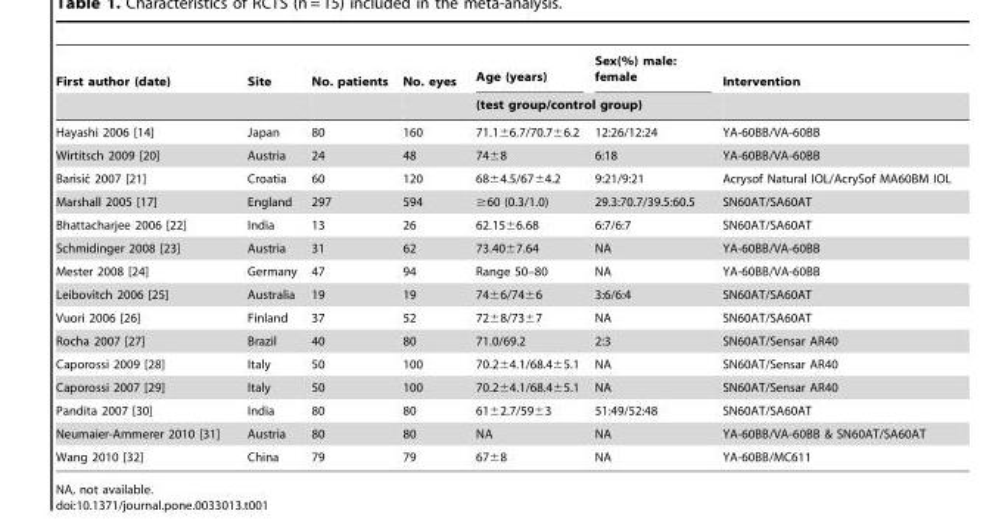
<table><thead><tr><td rowspan="2">First author (date)</td><td rowspan="2">Site</td><td rowspan="2">No. patients</td><td rowspan="2">No. eyes</td><td>Age (years)</td><td>Sex(%) male: female</td><td rowspan="2">Intervention</td></tr><tr><td colspan="2">(test group/control group)</td></tr></thead><tbody><tr><td>Hayashi 2006 [14]</td><td>Japan</td><td>80</td><td>160</td><td>71.1±6.7/70.7±6.2</td><td>12:26/12:24</td><td>YA-60BB/VA-60BB</td></tr><tr><td>Wirtitsch 2009 [20]</td><td>Austria</td><td>24</td><td>48</td><td>74±8</td><td>6:18</td><td>YA-60BB/VA-60BB</td></tr><tr><td>Barisic´ 2007 [21]</td><td>Croatia</td><td>60</td><td>120</td><td>68±4.5/67±4.2</td><td>9:21/9:21</td><td>Acrysof Natural IOL/AcrySof MA60BM IOL</td></tr><tr><td>Marshall 2005 [17]</td><td>England</td><td>297</td><td>594</td><td>≥60 (0.3/1.0)</td><td>29.3:70.7/39.5:60.5</td><td>SN60AT/SA60AT</td></tr><tr><td>Bhattacharjee 2006 [22]</td><td>India</td><td>13</td><td>26</td><td>62.15±6.68</td><td>6:7/6:7</td><td>SN60AT/SA60AT</td></tr><tr><td>Schmidinger 2008 [23]</td><td>Austria</td><td>31</td><td>62</td><td>73.40±7.64</td><td>NA</td><td>YA-60BB/VA-60BB</td></tr><tr><td>Mester 2008 [24]</td><td>Germany</td><td>47</td><td>94</td><td>Range 50–80</td><td>NA</td><td>YA-60BB/VA-60BB</td></tr><tr><td>Leibovitch 2006 [25]</td><td>Australia</td><td>19</td><td>19</td><td>74±6/74±6</td><td>3:6/6:4</td><td>SN60AT/SA60AT</td></tr><tr><td>Vuori 2006 [26]</td><td>Finland</td><td>37</td><td>52</td><td>72±8/73±7</td><td>NA</td><td>SN60AT/SA60AT</td></tr><tr><td>Rocha 2007 [27]</td><td>Brazil</td><td>40</td><td>80</td><td>71.0/69.2</td><td>2:3</td><td>SN60AT/Sensar AR40</td></tr><tr><td>Caporossi 2009 [28]</td><td>Italy</td><td>50</td><td>100</td><td>70.2±4.1/68.4±5.1</td><td>NA</td><td>SN60AT/Sensar AR40</td></tr><tr><td>Caporossi 2007 [29]</td><td>Italy</td><td>50</td><td>100</td><td>70.2±4.1/68.4±5.1</td><td>NA</td><td>SN60AT/Sensar AR40</td></tr><tr><td>Pandita 2007 [30]</td><td>India</td><td>80</td><td>80</td><td>61±2.7/59±3</td><td>51:49/52:48</td><td>SN60AT/SA60AT</td></tr><tr><td>Neumaier-Ammerer 2010 [31]</td><td>Austria</td><td>80</td><td>80</td><td>NA</td><td>NA</td><td>YA-60BB/VA-60BB &amp; SN60AT/SA60AT</td></tr><tr><td>Wang 2010 [32]</td><td>China</td><td>79</td><td>79</td><td>67±8</td><td>NA</td><td>YA-60BB/MC611</td></tr></tbody></table>